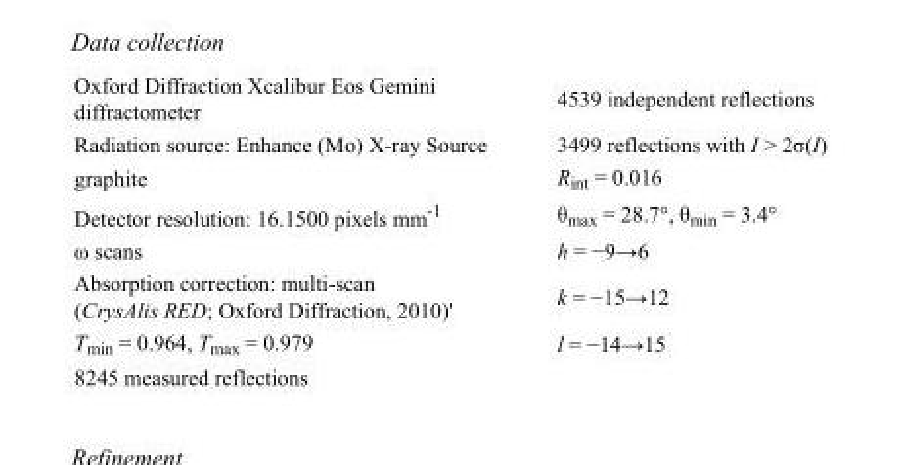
<table><tbody><tr><td>Oxford Diffraction Xcalibur Eos Gemini diffractometer</td><td>4539 independent reflections</td></tr><tr><td>Radiation source: Enhance (Mo) X-ray Source</td><td>3499 reflections with I &gt; 2σ(I)</td></tr><tr><td>graphite</td><td>R<sub>int</sub> = 0.016</td></tr><tr><td>Detector resolution: 16.1500 pixels mm<sup>-1</sup></td><td>θ<sub>max</sub> = 28.7°, θ<sub>min</sub> = 3.4°</td></tr><tr><td>ω scans</td><td>h = −9→6</td></tr><tr><td>Absorption correction: multi-scan (CrysAlis RED; Oxford Diffraction, 2010)&#x27;</td><td>k = −15→12</td></tr><tr><td>T<sub>min</sub> = 0.964, T<sub>max</sub> = 0.979</td><td>l = −14→15</td></tr><tr><td>8245 measured reflections</td><td></td></tr></tbody></table>